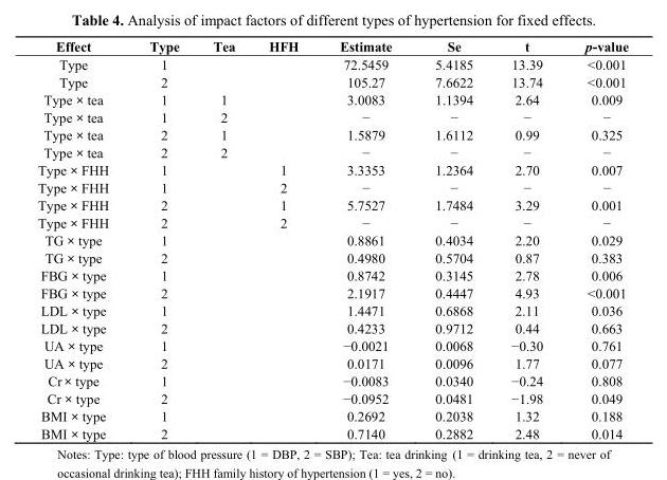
<table><thead><tr><td>Effect</td><td>Type</td><td>Tea</td><td>HFH</td><td>Estimate</td><td>Se</td><td>t</td><td>p-value</td></tr></thead><tbody><tr><td>Type</td><td>1</td><td></td><td></td><td>72.5459</td><td>5.4185</td><td>13.39</td><td>&lt;0.001</td></tr><tr><td>Type</td><td>2</td><td></td><td></td><td>105.27</td><td>7.6622</td><td>13.74</td><td>&lt;0.001</td></tr><tr><td>Type × tea</td><td>1</td><td>1</td><td></td><td>3.0083</td><td>1.1394</td><td>2.64</td><td>0.009</td></tr><tr><td>Type × tea</td><td>1</td><td>2</td><td></td><td>−</td><td>−</td><td>−</td><td>−</td></tr><tr><td>Type × tea</td><td>2</td><td>1</td><td></td><td>1.5879</td><td>1.6112</td><td>0.99</td><td>0.325</td></tr><tr><td>Type × tea</td><td>2</td><td>2</td><td></td><td>−</td><td>−</td><td>−</td><td>−</td></tr><tr><td>Type × FHH</td><td>1</td><td></td><td>1</td><td>3.3353</td><td>1.2364</td><td>2.70</td><td>0.007</td></tr><tr><td>Type × FHH</td><td>1</td><td></td><td>2</td><td>−</td><td>−</td><td>−</td><td>−</td></tr><tr><td>Type × FHH</td><td>2</td><td></td><td>1</td><td>5.7527</td><td>1.7484</td><td>3.29</td><td>0.001</td></tr><tr><td>Type × FHH</td><td>2</td><td></td><td>2</td><td>−</td><td>−</td><td>−</td><td>−</td></tr><tr><td>TG × type</td><td>1</td><td></td><td></td><td>0.8861</td><td>0.4034</td><td>2.20</td><td>0.029</td></tr><tr><td>TG × type</td><td>2</td><td></td><td></td><td>0.4980</td><td>0.5704</td><td>0.87</td><td>0.383</td></tr><tr><td>FBG × type</td><td>1</td><td></td><td></td><td>0.8742</td><td>0.3145</td><td>2.78</td><td>0.006</td></tr><tr><td>FBG × type</td><td>2</td><td></td><td></td><td>2.1917</td><td>0.4447</td><td>4.93</td><td>&lt;0.001</td></tr><tr><td>LDL × type</td><td>1</td><td></td><td></td><td>1.4471</td><td>0.6868</td><td>2.11</td><td>0.036</td></tr><tr><td>LDL × type</td><td>2</td><td></td><td></td><td>0.4233</td><td>0.9712</td><td>0.44</td><td>0.663</td></tr><tr><td>UA × type</td><td>1</td><td></td><td></td><td>−0.0021</td><td>0.0068</td><td>−0.30</td><td>0.761</td></tr><tr><td>UA × type</td><td>2</td><td></td><td></td><td>0.0171</td><td>0.0096</td><td>1.77</td><td>0.077</td></tr><tr><td>Cr × type</td><td>1</td><td></td><td></td><td>−0.0083</td><td>0.0340</td><td>−0.24</td><td>0.808</td></tr><tr><td>Cr × type</td><td>2</td><td></td><td></td><td>−0.0952</td><td>0.0481</td><td>−1.98</td><td>0.049</td></tr><tr><td>BMI × type</td><td>1</td><td></td><td></td><td>0.2692</td><td>0.2038</td><td>1.32</td><td>0.188</td></tr><tr><td>BMI × type</td><td>2</td><td></td><td></td><td>0.7140</td><td>0.2882</td><td>2.48</td><td>0.014</td></tr></tbody></table>